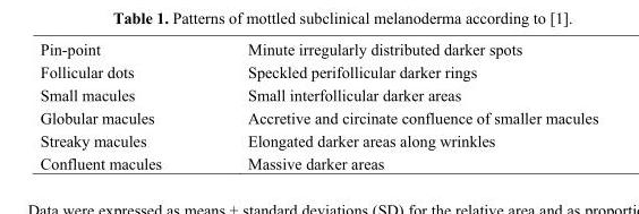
<table><tbody><tr><td>Pin-point</td><td>Minute irregularly distributed darker spots</td></tr><tr><td>Follicular dots</td><td>Speckled perifollicular darker rings</td></tr><tr><td>Small macules</td><td>Small interfollicular darker areas</td></tr><tr><td>Globular macules</td><td>Accretive and circinate confluence of smaller macules</td></tr><tr><td>Streaky macules</td><td>Elongated darker areas along wrinkles</td></tr><tr><td>Confluent macules</td><td>Massive darker areas</td></tr></tbody></table>